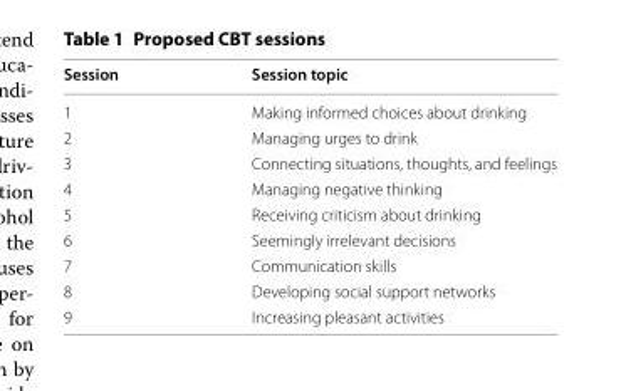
<table><thead><tr><td>Session</td><td>Session topic</td></tr></thead><tbody><tr><td>1</td><td>Making informed choices about drinking</td></tr><tr><td>2</td><td>Managing urges to drink</td></tr><tr><td>3</td><td>Connecting situations, thoughts, and feelings</td></tr><tr><td>4</td><td>Managing negative thinking</td></tr><tr><td>5</td><td>Receiving criticism about drinking</td></tr><tr><td>6</td><td>Seemingly irrelevant decisions</td></tr><tr><td>7</td><td>Communication skills</td></tr><tr><td>8</td><td>Developing social support networks</td></tr><tr><td>9</td><td>Increasing pleasant activities</td></tr></tbody></table>